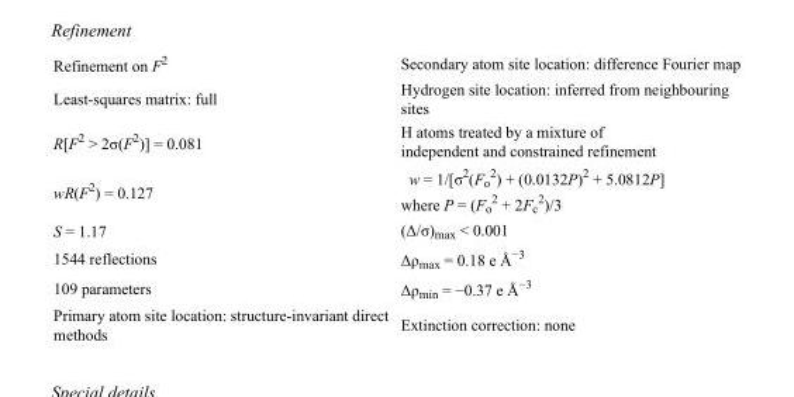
<table><tbody><tr><td>Refinement on F<sup>2</sup></td><td>Secondary atom site location: difference Fourier map</td></tr><tr><td>Least-squares matrix: full</td><td>Hydrogen site location: inferred from neighbouring sites</td></tr><tr><td>R[F<sup>2</sup> &gt; 2σ(F<sup>2</sup>)] = 0.081</td><td>H atoms treated by a mixture of independent and constrained refinement</td></tr><tr><td>wR(F<sup>2</sup>) = 0.127</td><td>w = 1/[σ<sup>2</sup>(F<sub>o</sub> <sup>2</sup>) + (0.0132P)<sup>2</sup> + 5.0812P] where P = (F<sub>o</sub> <sup>2</sup> + 2F<sub>c</sub> <sup>2</sup>)/3</td></tr><tr><td>S = 1.17</td><td>(Δ/σ)<sub>max</sub> &lt; 0.001</td></tr><tr><td>1544 reflections</td><td>Δρ<sub>max</sub> = 0.18 e Å<sup>−3</sup></td></tr><tr><td>109 parameters</td><td>Δρ<sub>min</sub> = −0.37 e Å<sup>−3</sup></td></tr><tr><td>Primary atom site location: structure-invariant direct methods</td><td>Extinction correction: none</td></tr></tbody></table>